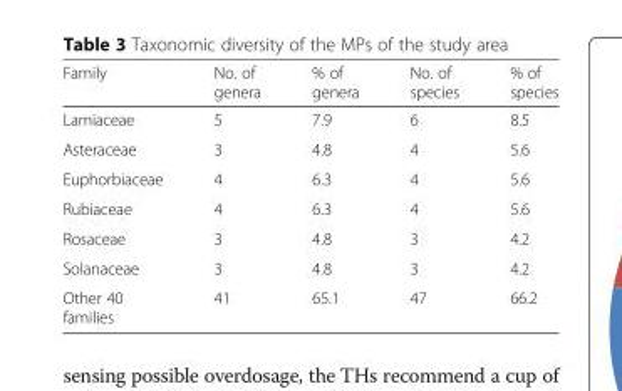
<table><thead><tr><td>Family</td><td>No. of genera</td><td>% of genera</td><td>No. of species</td><td>% of species</td></tr></thead><tbody><tr><td>Lamiaceae</td><td>5</td><td>7.9</td><td>6</td><td>8.5</td></tr><tr><td>Asteraceae</td><td>3</td><td>4.8</td><td>4</td><td>5.6</td></tr><tr><td>Euphorbiaceae</td><td>4</td><td>6.3</td><td>4</td><td>5.6</td></tr><tr><td>Rubiaceae</td><td>4</td><td>6.3</td><td>4</td><td>5.6</td></tr><tr><td>Rosaceae</td><td>3</td><td>4.8</td><td>3</td><td>4.2</td></tr><tr><td>Solanaceae</td><td>3</td><td>4.8</td><td>3</td><td>4.2</td></tr><tr><td>Other 40 families</td><td>41</td><td>65.1</td><td>47</td><td>66.2</td></tr></tbody></table>